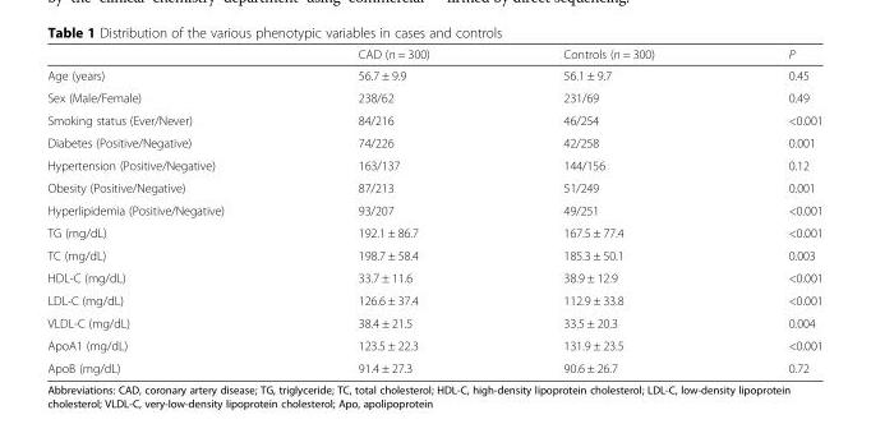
<table><thead><tr><td></td><td>CAD (n = 300)</td><td>Controls (n = 300)</td><td>P</td></tr></thead><tbody><tr><td>Age (years)</td><td>56.7 ± 9.9</td><td>56.1 ± 9.7</td><td>0.45</td></tr><tr><td>Sex (Male/Female)</td><td>238/62</td><td>231/69</td><td>0.49</td></tr><tr><td>Smoking status (Ever/Never)</td><td>84/216</td><td>46/254</td><td>&lt;0.001</td></tr><tr><td>Diabetes (Positive/Negative)</td><td>74/226</td><td>42/258</td><td>0.001</td></tr><tr><td>Hypertension (Positive/Negative)</td><td>163/137</td><td>144/156</td><td>0.12</td></tr><tr><td>Obesity (Positive/Negative)</td><td>87/213</td><td>51/249</td><td>0.001</td></tr><tr><td>Hyperlipidemia (Positive/Negative)</td><td>93/207</td><td>49/251</td><td>&lt;0.001</td></tr><tr><td>TG (mg/dL)</td><td>192.1 ± 86.7</td><td>167.5 ± 77.4</td><td>&lt;0.001</td></tr><tr><td>TC (mg/dL)</td><td>198.7 ± 58.4</td><td>185.3 ± 50.1</td><td>0.003</td></tr><tr><td>HDL-C (mg/dL)</td><td>33.7 ± 11.6</td><td>38.9 ± 12.9</td><td>&lt;0.001</td></tr><tr><td>LDL-C (mg/dL)</td><td>126.6 ± 37.4</td><td>112.9 ± 33.8</td><td>&lt;0.001</td></tr><tr><td>VLDL-C (mg/dL)</td><td>38.4 ± 21.5</td><td>33.5 ± 20.3</td><td>0.004</td></tr><tr><td>ApoA1 (mg/dL)</td><td>123.5 ± 22.3</td><td>131.9 ± 23.5</td><td>&lt;0.001</td></tr><tr><td>ApoB (mg/dL)</td><td>91.4 ± 27.3</td><td>90.6 ± 26.7</td><td>0.72</td></tr></tbody></table>